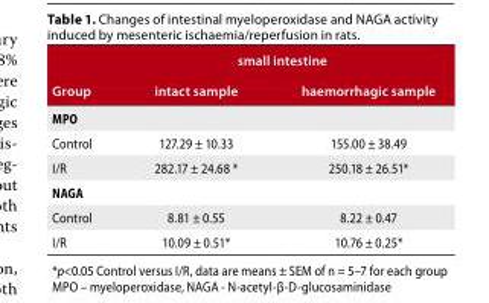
<table><thead><tr><td rowspan="2">Group</td><td colspan="2">small intestine</td></tr><tr><td>intact sample</td><td>haemorrhagic sample</td></tr></thead><tbody><tr><td colspan="3">MPO</td></tr><tr><td>Control</td><td>127.29 ± 10.33</td><td>155.00 ± 38.49</td></tr><tr><td>I/R</td><td>282.17 ± 24.68 *</td><td>250.18 ± 26.51*</td></tr><tr><td colspan="3">NAGA</td></tr><tr><td>Control</td><td>8.81 ± 0.55</td><td>8.22 ± 0.47</td></tr><tr><td>I/R</td><td>10.09 ± 0.51*</td><td>10.76 ± 0.25*</td></tr></tbody></table>